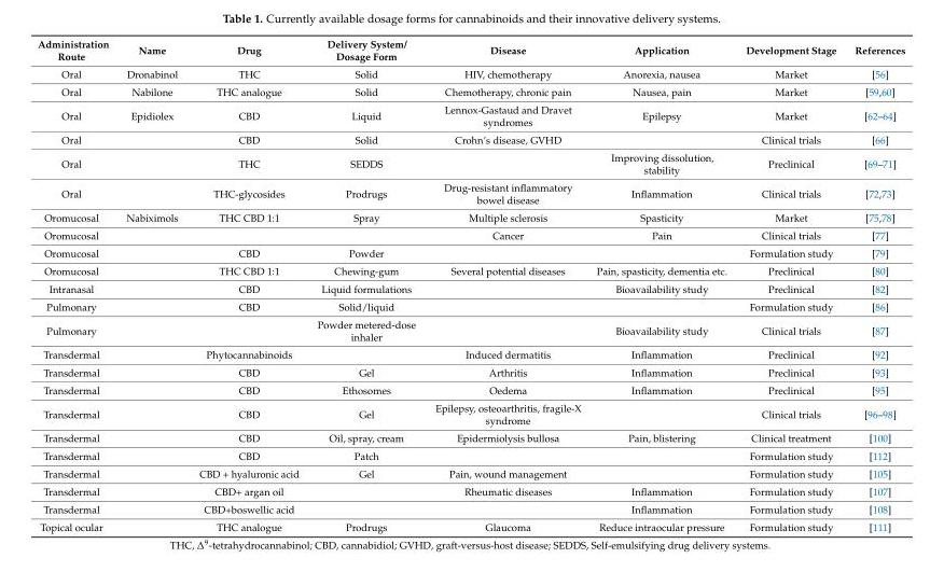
<table><thead><tr><td>Administration Route</td><td>Name</td><td>Drug</td><td>Delivery System/ Dosage Form</td><td>Disease</td><td>Application</td><td>Development Stage</td><td>References</td></tr></thead><tbody><tr><td>Oral</td><td>Dronabinol</td><td>THC</td><td>Solid</td><td>HIV, chemotherapy</td><td>Anorexia, nausea</td><td>Market</td><td>[56]</td></tr><tr><td>Oral</td><td>Nabilone</td><td>THC analogue</td><td>Solid</td><td>Chemotherapy, chronic pain</td><td>Nausea, pain</td><td>Market</td><td>[59,60]</td></tr><tr><td>Oral</td><td>Epidiolex</td><td>CBD</td><td>Liquid</td><td>Lennox-Gastaud and Dravet syndromes</td><td>Epilepsy</td><td>Market</td><td>[62–64]</td></tr><tr><td>Oral</td><td></td><td>CBD</td><td>Solid</td><td>Crohn’s disease, GVHD</td><td></td><td>Clinical trials</td><td>[66]</td></tr><tr><td>Oral</td><td></td><td>THC</td><td>SEDDS</td><td></td><td>Improving dissolution, stability</td><td>Preclinical</td><td>[69–71]</td></tr><tr><td>Oral</td><td></td><td>THC-glycosides</td><td>Prodrugs</td><td>Drug-resistant inflammatory bowel disease</td><td>Inflammation</td><td>Clinical trials</td><td>[72,73]</td></tr><tr><td>Oromucosal</td><td>Nabiximols</td><td>THC CBD 1:1</td><td>Spray</td><td>Multiple sclerosis</td><td>Spasticity</td><td>Market</td><td>[75,78]</td></tr><tr><td>Oromucosal</td><td></td><td></td><td></td><td>Cancer</td><td>Pain</td><td>Clinical trials</td><td>[77]</td></tr><tr><td>Oromucosal</td><td></td><td>CBD</td><td>Powder</td><td></td><td></td><td>Formulation study</td><td>[79]</td></tr><tr><td>Oromucosal</td><td></td><td>THC CBD 1:1</td><td>Chewing-gum</td><td>Several potential diseases</td><td>Pain, spasticity, dementia etc.</td><td>Preclinical</td><td>[80]</td></tr><tr><td>Intranasal</td><td></td><td>CBD</td><td>Liquid formulations</td><td></td><td>Bioavailability study</td><td>Preclinical</td><td>[82]</td></tr><tr><td>Pulmonary</td><td></td><td>CBD</td><td>Solid/liquid</td><td></td><td></td><td>Formulation study</td><td>[86]</td></tr><tr><td>Pulmonary</td><td></td><td></td><td>Powder metered-dose inhaler</td><td></td><td>Bioavailability study</td><td>Clinical trials</td><td>[87]</td></tr><tr><td>Transdermal</td><td></td><td>Phytocannabinoids</td><td></td><td>Induced dermatitis</td><td>Inflammation</td><td>Preclinical</td><td>[92]</td></tr><tr><td>Transdermal</td><td></td><td>CBD</td><td>Gel</td><td>Arthritis</td><td>Inflammation</td><td>Preclinical</td><td>[93]</td></tr><tr><td>Transdermal</td><td></td><td>CBD</td><td>Ethosomes</td><td>Oedema</td><td>Inflammation</td><td>Preclinical</td><td>[95]</td></tr><tr><td>Transdermal</td><td></td><td>CBD</td><td>Gel</td><td>Epilepsy, osteoarthritis, fragile-X syndrome</td><td></td><td>Clinical trials</td><td>[96–98]</td></tr><tr><td>Transdermal</td><td></td><td>CBD</td><td>Oil, spray, cream</td><td>Epidermiolysis bullosa</td><td>Pain, blistering</td><td>Clinical treatment</td><td>[100]</td></tr><tr><td>Transdermal</td><td></td><td>CBD</td><td>Patch</td><td></td><td></td><td>Formulation study</td><td>[112]</td></tr><tr><td>Transdermal</td><td></td><td>CBD + hyaluronic acid</td><td>Gel</td><td>Pain, wound management</td><td></td><td>Formulation study</td><td>[105]</td></tr><tr><td>Transdermal</td><td></td><td>CBD+ argan oil</td><td></td><td>Rheumatic diseases</td><td>Inflammation</td><td>Formulation study</td><td>[107]</td></tr><tr><td>Transdermal</td><td></td><td>CBD+boswellic acid</td><td></td><td></td><td>Inflammation</td><td>Formulation study</td><td>[108]</td></tr><tr><td>Topical ocular</td><td></td><td>THC analogue</td><td>Prodrugs</td><td>Glaucoma</td><td>Reduce intraocular pressure</td><td>Formulation study</td><td>[111]</td></tr></tbody></table>